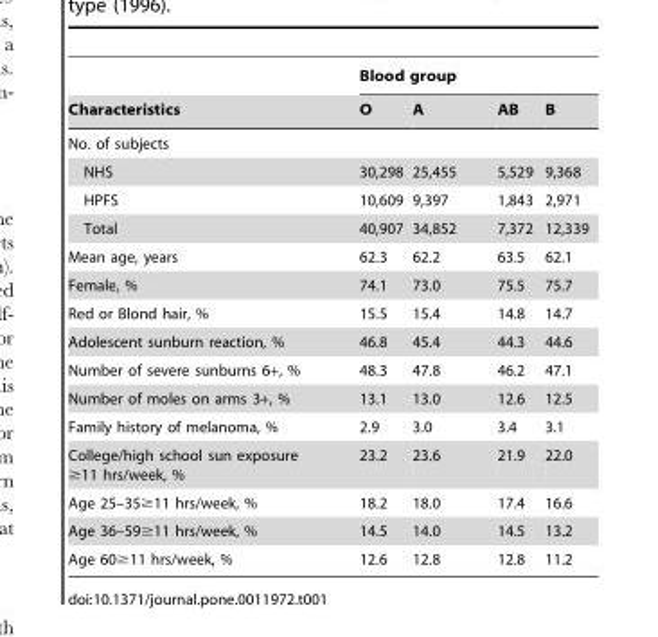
<table><thead><tr><td rowspan="2">Characteristics</td><td colspan="4">Blood group</td></tr><tr><td>O</td><td>A</td><td>AB</td><td>B</td></tr></thead><tbody><tr><td colspan="5">No. of subjects</td></tr><tr><td>NHS</td><td>30,298</td><td>25,455</td><td>5,529</td><td>9,368</td></tr><tr><td>HPFS</td><td>10,609</td><td>9,397</td><td>1,843</td><td>2,971</td></tr><tr><td>Total</td><td>40,907</td><td>34,852</td><td>7,372</td><td>12,339</td></tr><tr><td>Mean age, years</td><td>62.3</td><td>62.2</td><td>63.5</td><td>62.1</td></tr><tr><td>Female, %</td><td>74.1</td><td>73.0</td><td>75.5</td><td>75.7</td></tr><tr><td>Red or Blond hair, %</td><td>15.5</td><td>15.4</td><td>14.8</td><td>14.7</td></tr><tr><td>Adolescent sunburn reaction, %</td><td>46.8</td><td>45.4</td><td>44.3</td><td>44.6</td></tr><tr><td>Number of severe sunburns 6+, %</td><td>48.3</td><td>47.8</td><td>46.2</td><td>47.1</td></tr><tr><td>Number of moles on arms 3+, %</td><td>13.1</td><td>13.0</td><td>12.6</td><td>12.5</td></tr><tr><td>Family history of melanoma, %</td><td>2.9</td><td>3.0</td><td>3.4</td><td>3.1</td></tr><tr><td>College/high school sun exposure ≥11 hrs/week, %</td><td>23.2</td><td>23.6</td><td>21.9</td><td>22.0</td></tr><tr><td>Age 25–35≥11 hrs/week, %</td><td>18.2</td><td>18.0</td><td>17.4</td><td>16.6</td></tr><tr><td>Age 36–59≥11 hrs/week, %</td><td>14.5</td><td>14.0</td><td>14.5</td><td>13.2</td></tr><tr><td>Age 60≥11 hrs/week, %</td><td>12.6</td><td>12.8</td><td>12.8</td><td>11.2</td></tr></tbody></table>